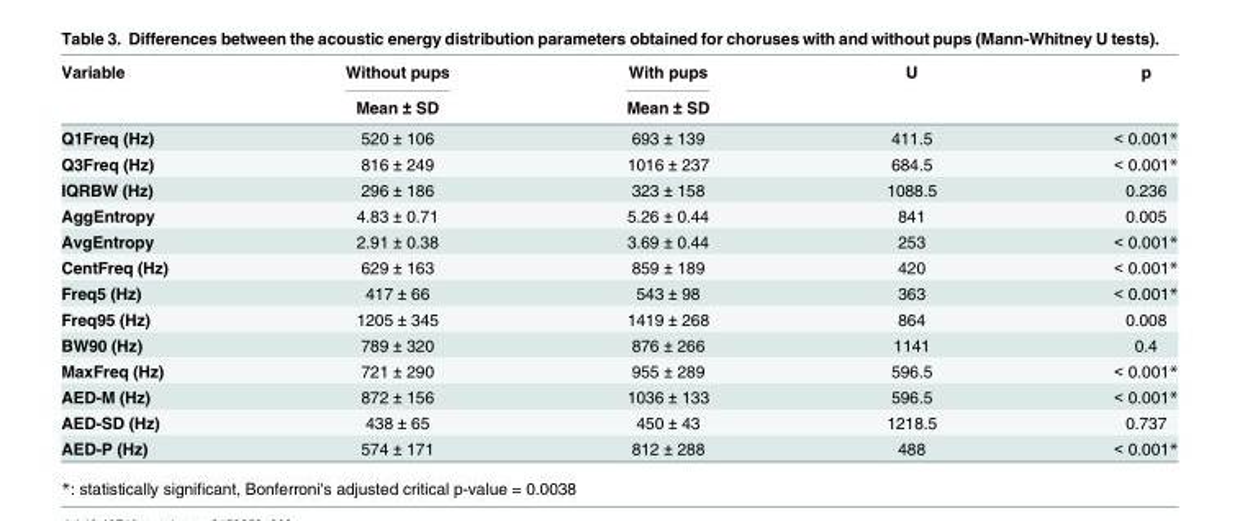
<table><thead><tr><td rowspan="2">Variable</td><td rowspan="2">Without pups Mean ± SD</td><td rowspan="2">With pups Mean ± SD</td><td rowspan="2">U</td><td rowspan="2">p</td></tr><tr></tr></thead><tbody><tr><td>Q1Freq (Hz)</td><td>520 ± 106</td><td>693 ± 139</td><td>411.5</td><td>&lt; 0.001*</td></tr><tr><td>Q3Freq (Hz)</td><td>816 ± 249</td><td>1016 ± 237</td><td>684.5</td><td>&lt; 0.001*</td></tr><tr><td>IQRBW (Hz)</td><td>296 ± 186</td><td>323 ± 158</td><td>1088.5</td><td>0.236</td></tr><tr><td>AggEntropy</td><td>4.83 ± 0.71</td><td>5.26 ± 0.44</td><td>841</td><td>0.005</td></tr><tr><td>AvgEntropy</td><td>2.91 ± 0.38</td><td>3.69 ± 0.44</td><td>253</td><td>&lt; 0.001*</td></tr><tr><td>CentFreq (Hz)</td><td>629 ± 163</td><td>859 ± 189</td><td>420</td><td>&lt; 0.001*</td></tr><tr><td>Freq5 (Hz)</td><td>417 ± 66</td><td>543 ± 98</td><td>363</td><td>&lt; 0.001*</td></tr><tr><td>Freq95 (Hz)</td><td>1205 ± 345</td><td>1419 ± 268</td><td>864</td><td>0.008</td></tr><tr><td>BW90 (Hz)</td><td>789 ± 320</td><td>876 ± 266</td><td>1141</td><td>0.4</td></tr><tr><td>MaxFreq (Hz)</td><td>721 ± 290</td><td>955 ± 289</td><td>596.5</td><td>&lt; 0.001*</td></tr><tr><td>AED-M (Hz)</td><td>872 ± 156</td><td>1036 ± 133</td><td>596.5</td><td>&lt; 0.001*</td></tr><tr><td>AED-SD (Hz)</td><td>438 ± 65</td><td>450 ± 43</td><td>1218.5</td><td>0.737</td></tr><tr><td>AED-P (Hz)</td><td>574 ± 171</td><td>812 ± 288</td><td>488</td><td>&lt; 0.001*</td></tr></tbody></table>